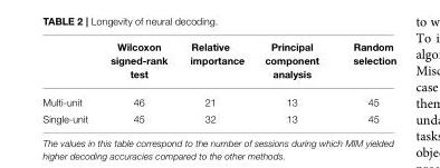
<table><thead><tr><td></td><td>Wilcoxon signed-rank test</td><td>Relative importance</td><td>Principal component analysis</td><td>Random selection</td></tr></thead><tbody><tr><td>Multi-unit</td><td>46</td><td>21</td><td>13</td><td>45</td></tr><tr><td>Single-unit</td><td>45</td><td>32</td><td>13</td><td>45</td></tr></tbody></table>